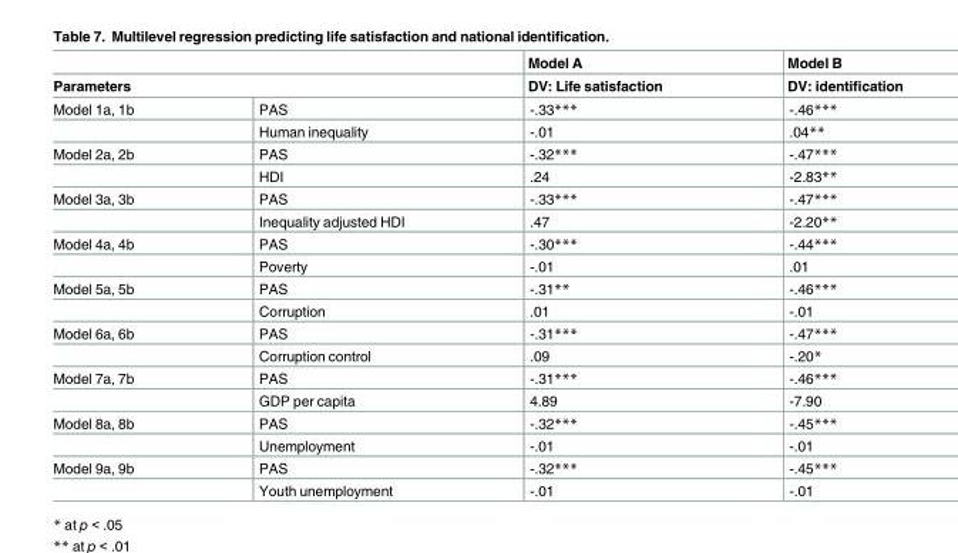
<table><thead><tr><td></td><td></td><td rowspan="2">Model A DV: Life satisfaction</td><td rowspan="2">Model B DV: identification</td></tr><tr><td colspan="2">Parameters</td></tr></thead><tbody><tr><td rowspan="2">Model 1a, 1b</td><td>PAS</td><td>-.33***</td><td>-.46***</td></tr><tr><td>Human inequality</td><td>-.01</td><td>.04**</td></tr><tr><td rowspan="2">Model 2a, 2b</td><td>PAS</td><td>-.32***</td><td>-.47***</td></tr><tr><td>HDI</td><td>.24</td><td>-2.83**</td></tr><tr><td rowspan="2">Model 3a, 3b</td><td>PAS</td><td>-.33***</td><td>-.47***</td></tr><tr><td>Inequality adjusted HDI</td><td>.47</td><td>-2.20**</td></tr><tr><td rowspan="2">Model 4a, 4b</td><td>PAS</td><td>-.30***</td><td>-.44***</td></tr><tr><td>Poverty</td><td>-.01</td><td>.01</td></tr><tr><td rowspan="2">Model 5a, 5b</td><td>PAS</td><td>-.31**</td><td>-.46***</td></tr><tr><td>Corruption</td><td>.01</td><td>-.01</td></tr><tr><td rowspan="2">Model 6a, 6b</td><td>PAS</td><td>-.31***</td><td>-.47***</td></tr><tr><td>Corruption control</td><td>.09</td><td>-.20*</td></tr><tr><td rowspan="2">Model 7a, 7b</td><td>PAS</td><td>-.31***</td><td>-.46***</td></tr><tr><td>GDP per capita</td><td>4.89</td><td>-7.90</td></tr><tr><td rowspan="2">Model 8a, 8b</td><td>PAS</td><td>-.32***</td><td>-.45***</td></tr><tr><td>Unemployment</td><td>-.01</td><td>-.01</td></tr><tr><td rowspan="2">Model 9a, 9b</td><td>PAS</td><td>-.32***</td><td>-.45***</td></tr><tr><td>Youth unemployment</td><td>-.01</td><td>-.01</td></tr></tbody></table>